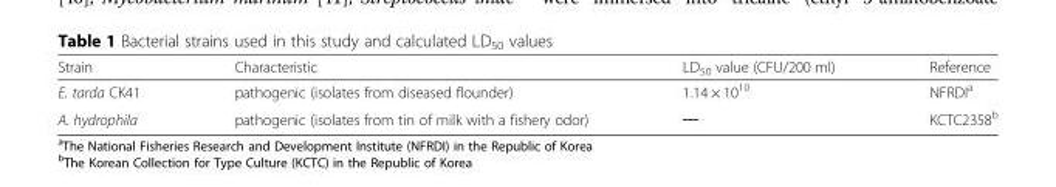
<table><thead><tr><td>Strain</td><td>Characteristic</td><td>LD<sub>50</sub> value (CFU/200 ml)</td><td>Reference</td></tr></thead><tbody><tr><td>E. tarda CK41</td><td>pathogenic (isolates from diseased flounder)</td><td>1.14 × 10<sup>10</sup></td><td>NFRDI<sup>a</sup></td></tr><tr><td>A. hydrophila</td><td>pathogenic (isolates from tin of milk with a fishery odor)</td><td>─</td><td>KCTC2358<sup>b</sup></td></tr></tbody></table>